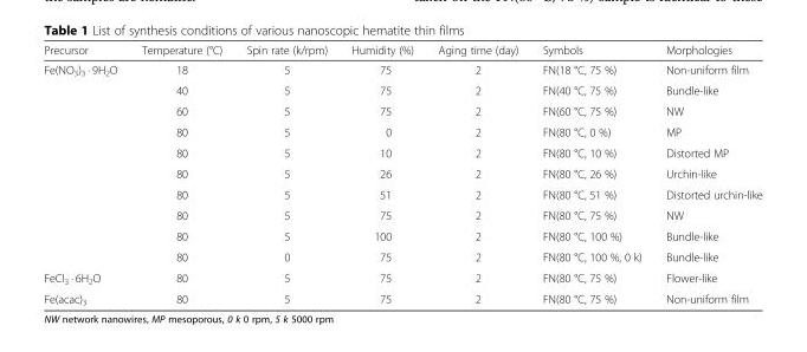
<table><thead><tr><td>Precursor</td><td>Temperature (°C)</td><td>Spin rate (k/rpm)</td><td>Humidity (%)</td><td>Aging time (day)</td><td>Symbols</td><td>Morphologies</td></tr></thead><tbody><tr><td rowspan="10">Fe(NO<sub>3</sub>)<sub>3</sub> · 9H<sub>2</sub>O</td><td>18</td><td>5</td><td>75</td><td>2</td><td>FN(18 °C, 75 %)</td><td>Non-uniform film</td></tr><tr><td>40</td><td>5</td><td>75</td><td>2</td><td>FN(40 °C, 75 %)</td><td>Bundle-like</td></tr><tr><td>60</td><td>5</td><td>75</td><td>2</td><td>FN(60 °C, 75 %)</td><td>NW</td></tr><tr><td>80</td><td>5</td><td>0</td><td>2</td><td>FN(80 °C, 0 %)</td><td>MP</td></tr><tr><td>80</td><td>5</td><td>10</td><td>2</td><td>FN(80 °C, 10 %)</td><td>Distorted MP</td></tr><tr><td>80</td><td>5</td><td>26</td><td>2</td><td>FN(80 °C, 26 %)</td><td>Urchin-like</td></tr><tr><td>80</td><td>5</td><td>51</td><td>2</td><td>FN(80 °C, 51 %)</td><td>Distorted urchin-like</td></tr><tr><td>80</td><td>5</td><td>75</td><td>2</td><td>FN(80 °C, 75 %)</td><td>NW</td></tr><tr><td>80</td><td>5</td><td>100</td><td>2</td><td>FN(80 °C, 100 %)</td><td>Bundle-like</td></tr><tr><td>80</td><td>0</td><td>75</td><td>2</td><td>FN(80 °C, 100 %, 0 k)</td><td>Bundle-like</td></tr><tr><td>FeCl<sub>3</sub> · 6H<sub>2</sub>O</td><td>80</td><td>5</td><td>75</td><td>2</td><td>FN(80 °C, 75 %)</td><td>Flower-like</td></tr><tr><td>Fe(acac)<sub>3</sub></td><td>80</td><td>5</td><td>75</td><td>2</td><td>FN(80 °C, 75 %)</td><td>Non-uniform film</td></tr></tbody></table>